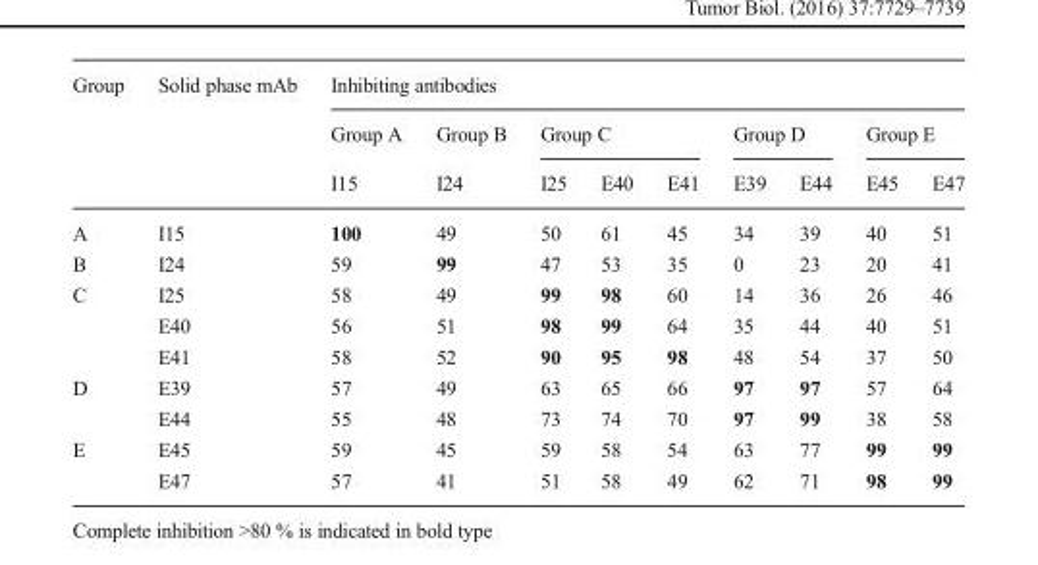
<table><thead><tr><td rowspan="3">Group</td><td rowspan="3">Solid phase mAb</td><td colspan="9">Inhibiting antibodies</td></tr><tr><td rowspan="2">Group A I15</td><td rowspan="2">Group B I24</td><td colspan="3">Group C</td><td colspan="2">Group D</td><td colspan="2">Group E</td></tr><tr><td>I25</td><td>E40</td><td>E41</td><td>E39</td><td>E44</td><td>E45</td><td>E47</td></tr></thead><tbody><tr><td>A</td><td>I15</td><td>100</td><td>49</td><td>50</td><td>61</td><td>45</td><td>34</td><td>39</td><td>40</td><td>51</td></tr><tr><td>B</td><td>I24</td><td>59</td><td>99</td><td>47</td><td>53</td><td>35</td><td>0</td><td>23</td><td>20</td><td>41</td></tr><tr><td rowspan="3">C</td><td>I25</td><td>58</td><td>49</td><td>99</td><td>98</td><td>60</td><td>14</td><td>36</td><td>26</td><td>46</td></tr><tr><td>E40</td><td>56</td><td>51</td><td>98</td><td>99</td><td>64</td><td>35</td><td>44</td><td>40</td><td>51</td></tr><tr><td>E41</td><td>58</td><td>52</td><td>90</td><td>95</td><td>98</td><td>48</td><td>54</td><td>37</td><td>50</td></tr><tr><td rowspan="2">D</td><td>E39</td><td>57</td><td>49</td><td>63</td><td>65</td><td>66</td><td>97</td><td>97</td><td>57</td><td>64</td></tr><tr><td>E44</td><td>55</td><td>48</td><td>73</td><td>74</td><td>70</td><td>97</td><td>99</td><td>38</td><td>58</td></tr><tr><td rowspan="2">E</td><td>E45</td><td>59</td><td>45</td><td>59</td><td>58</td><td>54</td><td>63</td><td>77</td><td>99</td><td>99</td></tr><tr><td>E47</td><td>57</td><td>41</td><td>51</td><td>58</td><td>49</td><td>62</td><td>71</td><td>98</td><td>99</td></tr></tbody></table>